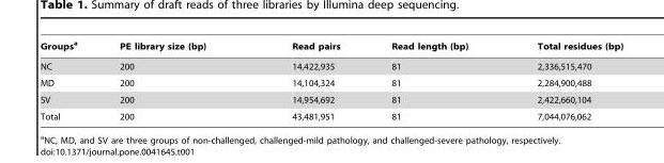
<table><thead><tr><td>Groups<sup>a</sup></td><td>PE library size (bp)</td><td>Read pairs</td><td>Read length (bp)</td><td>Total residues (bp)</td></tr></thead><tbody><tr><td>NC</td><td>200</td><td>14,422,935</td><td>81</td><td>2,336,515,470</td></tr><tr><td>MD</td><td>200</td><td>14,104,324</td><td>81</td><td>2,284,900,488</td></tr><tr><td>SV</td><td>200</td><td>14,954,692</td><td>81</td><td>2,422,660,104</td></tr><tr><td>Total</td><td>200</td><td>43,481,951</td><td>81</td><td>7,044,076,062</td></tr></tbody></table>